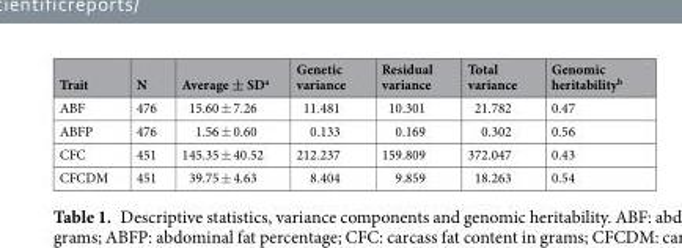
<table><thead><tr><td>Trait</td><td>N</td><td>Average ± SD<sup>a</sup></td><td>Genetic variance</td><td>Residual variance</td><td>Total variance</td><td>Genomic heritability<sup>b</sup></td></tr></thead><tbody><tr><td>ABF</td><td>476</td><td>15.60 ± 7.26</td><td>11.481</td><td>10.301</td><td>21.782</td><td>0.47</td></tr><tr><td>ABFP</td><td>476</td><td>1.56 ± 0.60</td><td>0.133</td><td>0.169</td><td>0.302</td><td>0.56</td></tr><tr><td>CFC</td><td>451</td><td>145.35 ± 40.52</td><td>212.237</td><td>159.809</td><td>372.047</td><td>0.43</td></tr><tr><td>CFCDM</td><td>451</td><td>39.75 ± 4.63</td><td>8.404</td><td>9.859</td><td>18.263</td><td>0.54</td></tr></tbody></table>